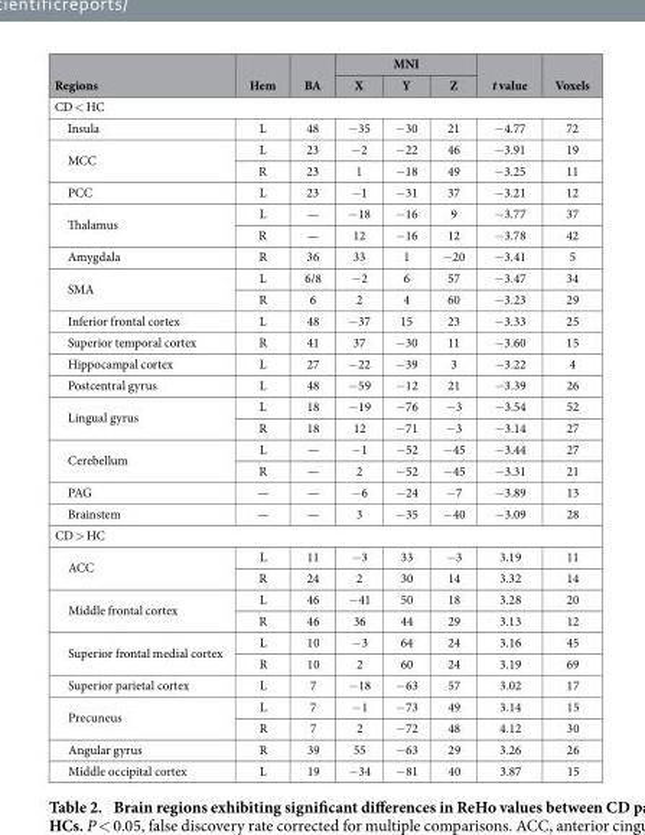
<table><thead><tr><td rowspan="2">Regions</td><td rowspan="2">Hem</td><td rowspan="2">BA</td><td colspan="3">MNI</td><td rowspan="2">t value</td><td rowspan="2">Voxels</td></tr><tr><td>X</td><td>Y</td><td>Z</td></tr></thead><tbody><tr><td colspan="8">CD &lt; HC</td></tr><tr><td>Insula</td><td>L</td><td>48</td><td>− 35</td><td>− 30</td><td>21</td><td>− 4.77</td><td>72</td></tr><tr><td rowspan="2">MCC</td><td>L</td><td>23</td><td>− 2</td><td>− 22</td><td>46</td><td>− 3.91</td><td>19</td></tr><tr><td>R</td><td>23</td><td>1</td><td>− 18</td><td>49</td><td>− 3.25</td><td>11</td></tr><tr><td>PCC</td><td>L</td><td>23</td><td>− 1</td><td>− 31</td><td>37</td><td>− 3.21</td><td>12</td></tr><tr><td rowspan="2">Thalamus</td><td>L</td><td>—</td><td>− 18</td><td>− 16</td><td>9</td><td>− 3.77</td><td>37</td></tr><tr><td>R</td><td>—</td><td>12</td><td>− 16</td><td>12</td><td>− 3.78</td><td>42</td></tr><tr><td>Amygdala</td><td>R</td><td>36</td><td>33</td><td>1</td><td>− 20</td><td>− 3.41</td><td>5</td></tr><tr><td rowspan="2">SMA</td><td>L</td><td>6/8</td><td>− 2</td><td>6</td><td>57</td><td>− 3.47</td><td>34</td></tr><tr><td>R</td><td>6</td><td>2</td><td>4</td><td>60</td><td>− 3.23</td><td>29</td></tr><tr><td>Inferior frontal cortex</td><td>L</td><td>48</td><td>− 37</td><td>15</td><td>23</td><td>− 3.33</td><td>25</td></tr><tr><td>Superior temporal cortex</td><td>R</td><td>41</td><td>37</td><td>− 30</td><td>11</td><td>− 3.60</td><td>15</td></tr><tr><td>Hippocampal cortex</td><td>L</td><td>27</td><td>− 22</td><td>− 39</td><td>3</td><td>− 3.22</td><td>4</td></tr><tr><td>Postcentral gyrus</td><td>L</td><td>48</td><td>− 59</td><td>− 12</td><td>21</td><td>− 3.39</td><td>26</td></tr><tr><td rowspan="2">Lingual gyrus</td><td>L</td><td>18</td><td>− 19</td><td>− 76</td><td>− 3</td><td>− 3.54</td><td>52</td></tr><tr><td>R</td><td>18</td><td>12</td><td>− 71</td><td>− 3</td><td>− 3.14</td><td>27</td></tr><tr><td rowspan="2">Cerebellum</td><td>L</td><td>—</td><td>− 1</td><td>− 52</td><td>− 45</td><td>− 3.44</td><td>27</td></tr><tr><td>R</td><td>—</td><td>2</td><td>− 52</td><td>− 45</td><td>− 3.31</td><td>21</td></tr><tr><td>PAG</td><td>—</td><td>—</td><td>− 6</td><td>− 24</td><td>− 7</td><td>− 3.89</td><td>13</td></tr><tr><td>Brainstem</td><td>—</td><td>—</td><td>3</td><td>− 35</td><td>− 40</td><td>− 3.09</td><td>28</td></tr><tr><td colspan="8">CD &gt; HC</td></tr><tr><td rowspan="2">ACC</td><td>L</td><td>11</td><td>− 3</td><td>33</td><td>− 3</td><td>3.19</td><td>11</td></tr><tr><td>R</td><td>24</td><td>2</td><td>30</td><td>14</td><td>3.32</td><td>14</td></tr><tr><td rowspan="2">Middle frontal cortex</td><td>L</td><td>46</td><td>− 41</td><td>50</td><td>18</td><td>3.28</td><td>20</td></tr><tr><td>R</td><td>46</td><td>36</td><td>44</td><td>29</td><td>3.13</td><td>12</td></tr><tr><td rowspan="2">Superior frontal medial cortex</td><td>L</td><td>10</td><td>− 3</td><td>64</td><td>24</td><td>3.16</td><td>45</td></tr><tr><td>R</td><td>10</td><td>2</td><td>60</td><td>24</td><td>3.19</td><td>69</td></tr><tr><td>Superior parietal cortex</td><td>L</td><td>7</td><td>− 18</td><td>− 63</td><td>57</td><td>3.02</td><td>17</td></tr><tr><td rowspan="2">Precuneus</td><td>L</td><td>7</td><td>− 1</td><td>− 73</td><td>49</td><td>3.14</td><td>15</td></tr><tr><td>R</td><td>7</td><td>2</td><td>− 72</td><td>48</td><td>4.12</td><td>30</td></tr><tr><td>Angular gyrus</td><td>R</td><td>39</td><td>55</td><td>− 63</td><td>29</td><td>3.26</td><td>26</td></tr><tr><td>Middle occipital cortex</td><td>L</td><td>19</td><td>− 34</td><td>− 81</td><td>40</td><td>3.87</td><td>15</td></tr></tbody></table>